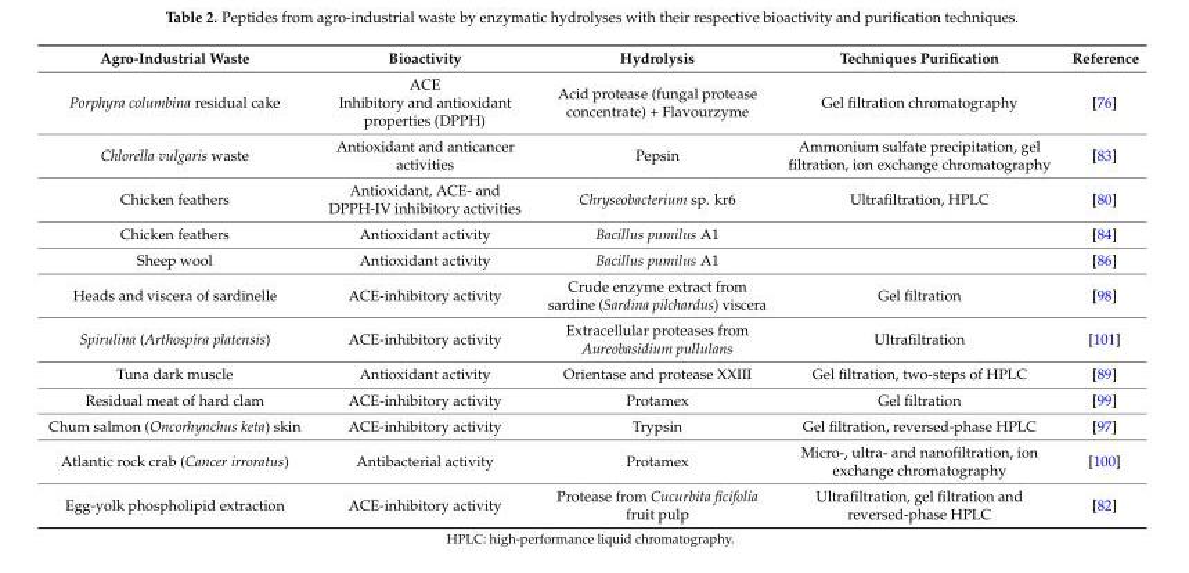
<table><thead><tr><td>Agro-Industrial Waste</td><td>Bioactivity</td><td>Hydrolysis</td><td>Techniques Purification</td><td>Reference</td></tr></thead><tbody><tr><td>Porphyra columbina residual cake</td><td>ACE Inhibitory and antioxidant properties (DPPH)</td><td>Acid protease (fungal protease concentrate) + Flavourzyme</td><td>Gel filtration chromatography</td><td>[76]</td></tr><tr><td>Chlorella vulgaris waste</td><td>Antioxidant and anticancer activities</td><td>Pepsin</td><td>Ammonium sulfate precipitation, gel filtration, ion exchange chromatography</td><td>[83]</td></tr><tr><td>Chicken feathers</td><td>Antioxidant, ACE- and DPPH-IV inhibitory activities</td><td>Chryseobacterium sp. kr6</td><td>Ultrafiltration, HPLC</td><td>[80]</td></tr><tr><td>Chicken feathers</td><td>Antioxidant activity</td><td>Bacillus pumilus A1</td><td></td><td>[84]</td></tr><tr><td>Sheep wool</td><td>Antioxidant activity</td><td>Bacillus pumilus A1</td><td></td><td>[86]</td></tr><tr><td>Heads and viscera of sardinelle</td><td>ACE-inhibitory activity</td><td>Crude enzyme extract from sardine (Sardina pilchardus) viscera</td><td>Gel filtration</td><td>[98]</td></tr><tr><td>Spirulina (Arthospira platensis)</td><td>ACE-inhibitory activity</td><td>Extracellular proteases from Aureobasidium pullulans</td><td>Ultrafiltration</td><td>[101]</td></tr><tr><td>Tuna dark muscle</td><td>Antioxidant activity</td><td>Orientase and protease XXIII</td><td>Gel filtration, two-steps of HPLC</td><td>[89]</td></tr><tr><td>Residual meat of hard clam</td><td>ACE-inhibitory activity</td><td>Protamex</td><td>Gel filtration</td><td>[99]</td></tr><tr><td>Chum salmon (Oncorhynchus keta) skin</td><td>ACE-inhibitory activity</td><td>Trypsin</td><td>Gel filtration, reversed-phase HPLC</td><td>[97]</td></tr><tr><td>Atlantic rock crab (Cancer irroratus)</td><td>Antibacterial activity</td><td>Protamex</td><td>Micro-, ultra- and nanofiltration, ion exchange chromatography</td><td>[100]</td></tr><tr><td>Egg-yolk phospholipid extraction</td><td>ACE-inhibitory activity</td><td>Protease from Cucurbita ficifolia fruit pulp</td><td>Ultrafiltration, gel filtration and reversed-phase HPLC</td><td>[82]</td></tr></tbody></table>